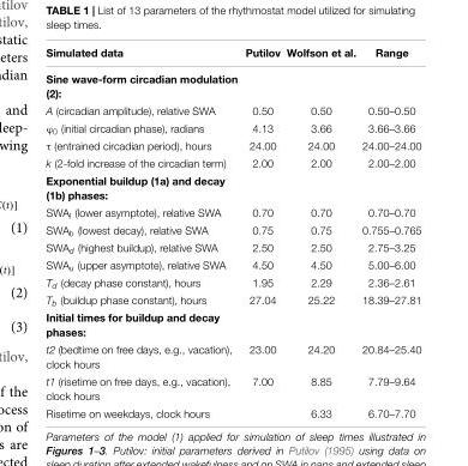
<table><thead><tr><td>Simulated data</td><td>Putilov</td><td>Wolfson et al.</td><td>Range</td></tr></thead><tbody><tr><td colspan="4">Sine wave-form circadian modulation (2):</td></tr><tr><td>A (circadian amplitude), relative SWA</td><td>0.50</td><td>0.50</td><td>0.50–0.50</td></tr><tr><td>ϕ<sub>0</sub> (initial circadian phase), radians</td><td>4.13</td><td>3.66</td><td>3.66–3.66</td></tr><tr><td>τ (entrained circadian period), hours</td><td>24.00</td><td>24.00</td><td>24.00–24.00</td></tr><tr><td>k (2-fold increase of the circadian term)</td><td>2.00</td><td>2.00</td><td>2.00–2.00</td></tr><tr><td colspan="4">Exponential buildup (1a) and decay (1b) phases:</td></tr><tr><td>SWA<sub>l</sub> (lower asymptote), relative SWA</td><td>0.70</td><td>0.70</td><td>0.70–0.70</td></tr><tr><td>SWA<sub>b</sub> (lowest decay), relative SWA</td><td>0.75</td><td>0.75</td><td>0.755–0.765</td></tr><tr><td>SWA<sub>d</sub> (highest buildup), relative SWA</td><td>2.50</td><td>2.50</td><td>2.75–3.25</td></tr><tr><td>SWA<sub>u</sub> (upper asymptote), relative SWA</td><td>4.50</td><td>4.50</td><td>5.00–6.00</td></tr><tr><td>T<sub>d</sub> (decay phase constant), hours</td><td>1.95</td><td>2.29</td><td>2.36–2.61</td></tr><tr><td>T<sub>b</sub> (buildup phase constant), hours</td><td>27.04</td><td>25.22</td><td>18.39–27.81</td></tr><tr><td colspan="4">Initial times for buildup and decay phases:</td></tr><tr><td>t2 (bedtime on free days, e.g., vacation), clock hours</td><td>23.00</td><td>24.20</td><td>20.84–25.40</td></tr><tr><td>t1 (risetime on free days, e.g., vacation), clock hours</td><td>7.00</td><td>8.85</td><td>7.79–9.64</td></tr><tr><td>Risetime on weekdays, clock hours</td><td></td><td>6.33</td><td>6.70–7.70</td></tr></tbody></table>